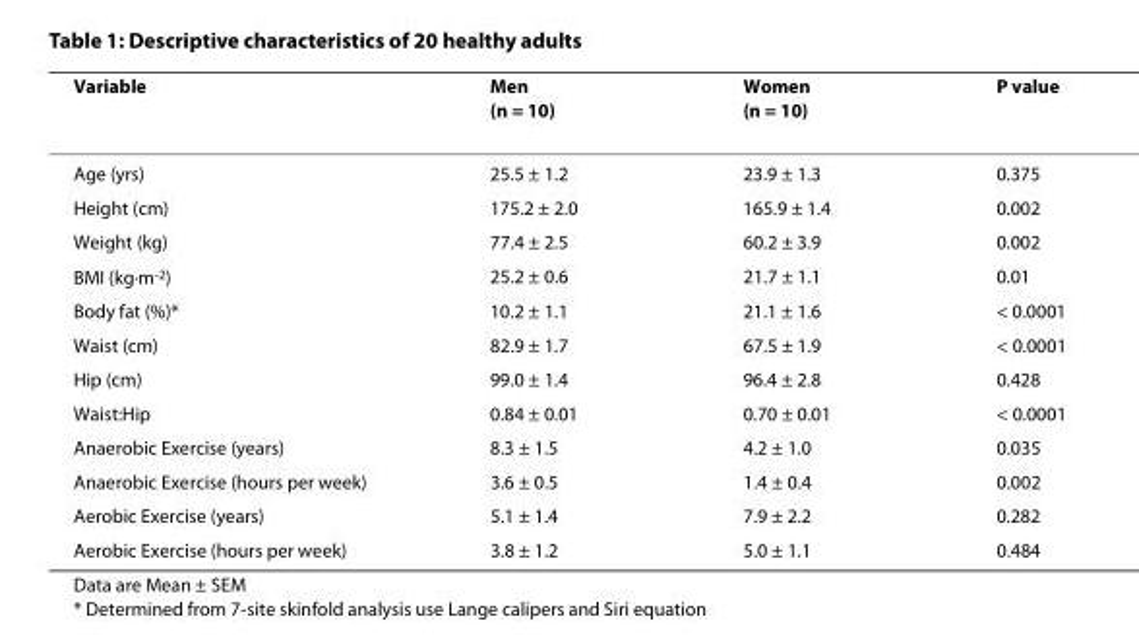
<table><thead><tr><td>Variable</td><td>Men (n = 10)</td><td>Women (n = 10)</td><td>P value</td></tr></thead><tbody><tr><td>Age (yrs)</td><td>25.5 ± 1.2</td><td>23.9 ± 1.3</td><td>0.375</td></tr><tr><td>Height (cm)</td><td>175.2 ± 2.0</td><td>165.9 ± 1.4</td><td>0.002</td></tr><tr><td>Weight (kg)</td><td>77.4 ± 2.5</td><td>60.2 ± 3.9</td><td>0.002</td></tr><tr><td>BMI (kg·m<sup>-2</sup>)</td><td>25.2 ± 0.6</td><td>21.7 ± 1.1</td><td>0.01</td></tr><tr><td>Body fat (%)*</td><td>10.2 ± 1.1</td><td>21.1 ± 1.6</td><td>&lt; 0.0001</td></tr><tr><td>Waist (cm)</td><td>82.9 ± 1.7</td><td>67.5 ± 1.9</td><td>&lt; 0.0001</td></tr><tr><td>Hip (cm)</td><td>99.0 ± 1.4</td><td>96.4 ± 2.8</td><td>0.428</td></tr><tr><td>Waist:Hip</td><td>0.84 ± 0.01</td><td>0.70 ± 0.01</td><td>&lt; 0.0001</td></tr><tr><td>Anaerobic Exercise (years)</td><td>8.3 ± 1.5</td><td>4.2 ± 1.0</td><td>0.035</td></tr><tr><td>Anaerobic Exercise (hours per week)</td><td>3.6 ± 0.5</td><td>1.4 ± 0.4</td><td>0.002</td></tr><tr><td>Aerobic Exercise (years)</td><td>5.1 ± 1.4</td><td>7.9 ± 2.2</td><td>0.282</td></tr><tr><td>Aerobic Exercise (hours per week)</td><td>3.8 ± 1.2</td><td>5.0 ± 1.1</td><td>0.484</td></tr></tbody></table>